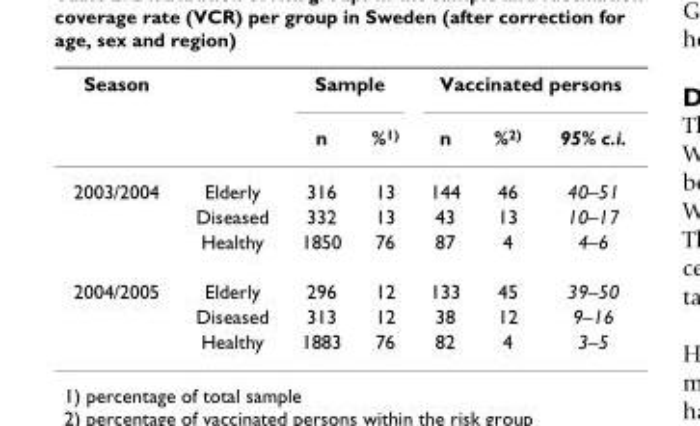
<table><thead><tr><td rowspan="2">Season</td><td rowspan="2"></td><td colspan="2">Sample</td><td colspan="3">Vaccinated persons</td></tr><tr><td>n</td><td>%<sup>1)</sup></td><td>n</td><td>%<sup>2)</sup></td><td>95% c.i.</td></tr></thead><tbody><tr><td rowspan="3">2003/2004</td><td>Elderly</td><td>316</td><td>13</td><td>144</td><td>46</td><td>40–51</td></tr><tr><td>Diseased</td><td>332</td><td>13</td><td>43</td><td>13</td><td>10–17</td></tr><tr><td>Healthy</td><td>1850</td><td>76</td><td>87</td><td>4</td><td>4–6</td></tr><tr><td rowspan="3">2004/2005</td><td>Elderly</td><td>296</td><td>12</td><td>133</td><td>45</td><td>39–50</td></tr><tr><td>Diseased</td><td>313</td><td>12</td><td>38</td><td>12</td><td>9–16</td></tr><tr><td>Healthy</td><td>1883</td><td>76</td><td>82</td><td>4</td><td>3–5</td></tr></tbody></table>